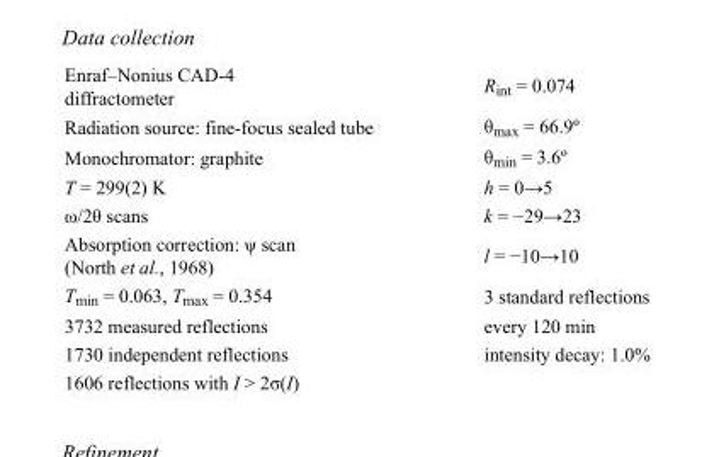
<table><tbody><tr><td>Enraf–Nonius CAD-4 diffractometer</td><td>R<sub>int</sub> = 0.074</td></tr><tr><td>Radiation source: fine-focus sealed tube</td><td>θ<sub>max</sub> = 66.9º</td></tr><tr><td>Monochromator: graphite</td><td>θ<sub>min</sub> = 3.6º</td></tr><tr><td>T = 299(2) K</td><td>h = 0→5</td></tr><tr><td>ω/2θ scans</td><td>k = −29→23</td></tr><tr><td>Absorption correction: ψ scan (North et al., 1968)</td><td>l = −10→10</td></tr><tr><td>T<sub>min</sub> = 0.063, T<sub>max</sub> = 0.354</td><td>3 standard reflections</td></tr><tr><td>3732 measured reflections</td><td>every 120 min</td></tr><tr><td>1730 independent reflections</td><td>intensity decay: 1.0%</td></tr><tr><td>1606 reflections with I &gt; 2σ(I)</td><td></td></tr></tbody></table>